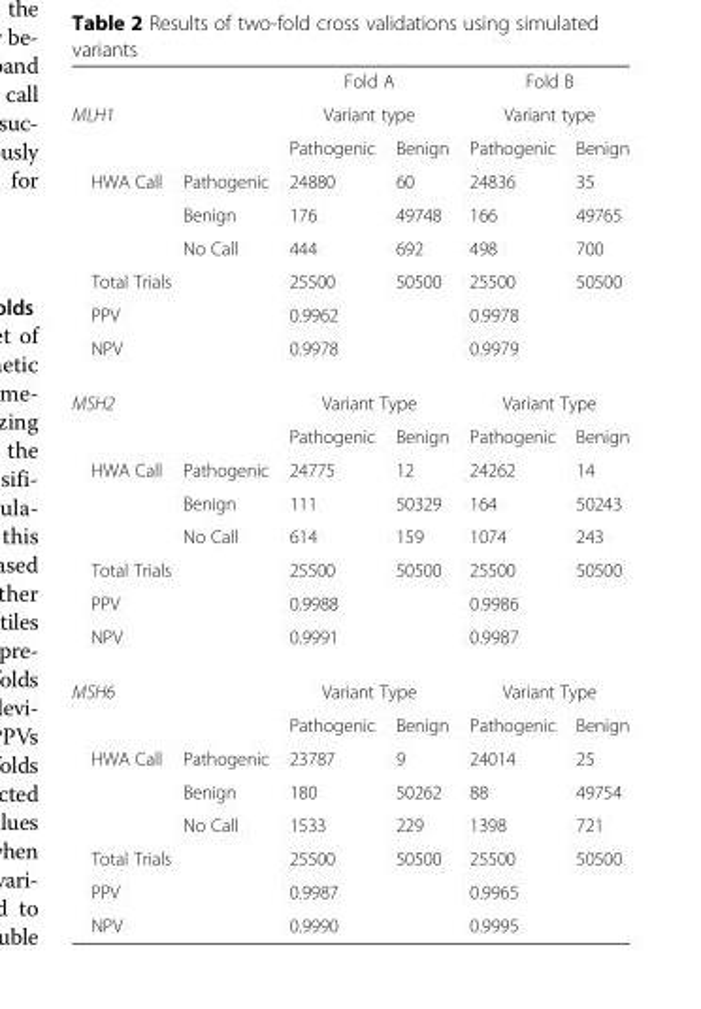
<table><thead><tr><td rowspan="3">MLH1</td><td rowspan="3"></td><td rowspan="2" colspan="2">Fold A Variant type</td><td rowspan="2" colspan="2">Fold B Variant type</td></tr><tr></tr><tr><td>Pathogenic</td><td>Benign</td><td>Pathogenic</td><td>Benign</td></tr></thead><tbody><tr><td rowspan="3">HWA Call</td><td>Pathogenic</td><td>24880</td><td>60</td><td>24836</td><td>35</td></tr><tr><td>Benign</td><td>176</td><td>49748</td><td>166</td><td>49765</td></tr><tr><td>No Call</td><td>444</td><td>692</td><td>498</td><td>700</td></tr><tr><td colspan="2">Total Trials</td><td>25500</td><td>50500</td><td>25500</td><td>50500</td></tr><tr><td colspan="2">PPV</td><td colspan="2">0.9962</td><td colspan="2">0.9978</td></tr><tr><td colspan="2">NPV</td><td colspan="2">0.9978</td><td colspan="2">0.9979</td></tr><tr><td colspan="2">MSH2</td><td colspan="2">Variant Type</td><td colspan="2">Variant Type</td></tr><tr><td></td><td></td><td>Pathogenic</td><td>Benign</td><td>Pathogenic</td><td>Benign</td></tr><tr><td rowspan="3">HWA Call</td><td>Pathogenic</td><td>24775</td><td>12</td><td>24262</td><td>14</td></tr><tr><td>Benign</td><td>111</td><td>50329</td><td>164</td><td>50243</td></tr><tr><td>No Call</td><td>614</td><td>159</td><td>1074</td><td>243</td></tr><tr><td colspan="2">Total Trials</td><td>25500</td><td>50500</td><td>25500</td><td>50500</td></tr><tr><td colspan="2">PPV</td><td colspan="2">0.9988</td><td colspan="2">0.9986</td></tr><tr><td colspan="2">NPV</td><td colspan="2">0.9991</td><td colspan="2">0.9987</td></tr><tr><td colspan="2">MSH6</td><td colspan="2">Variant Type</td><td colspan="2">Variant Type</td></tr><tr><td></td><td></td><td>Pathogenic</td><td>Benign</td><td>Pathogenic</td><td>Benign</td></tr><tr><td rowspan="3">HWA Call</td><td>Pathogenic</td><td>23787</td><td>9</td><td>24014</td><td>25</td></tr><tr><td>Benign</td><td>180</td><td>50262</td><td>88</td><td>49754</td></tr><tr><td>No Call</td><td>1533</td><td>229</td><td>1398</td><td>721</td></tr><tr><td colspan="2">Total Trials</td><td>25500</td><td>50500</td><td>25500</td><td>50500</td></tr><tr><td colspan="2">PPV</td><td colspan="2">0.9987</td><td colspan="2">0.9965</td></tr><tr><td colspan="2">NPV</td><td colspan="2">0.9990</td><td colspan="2">0.9995</td></tr></tbody></table>